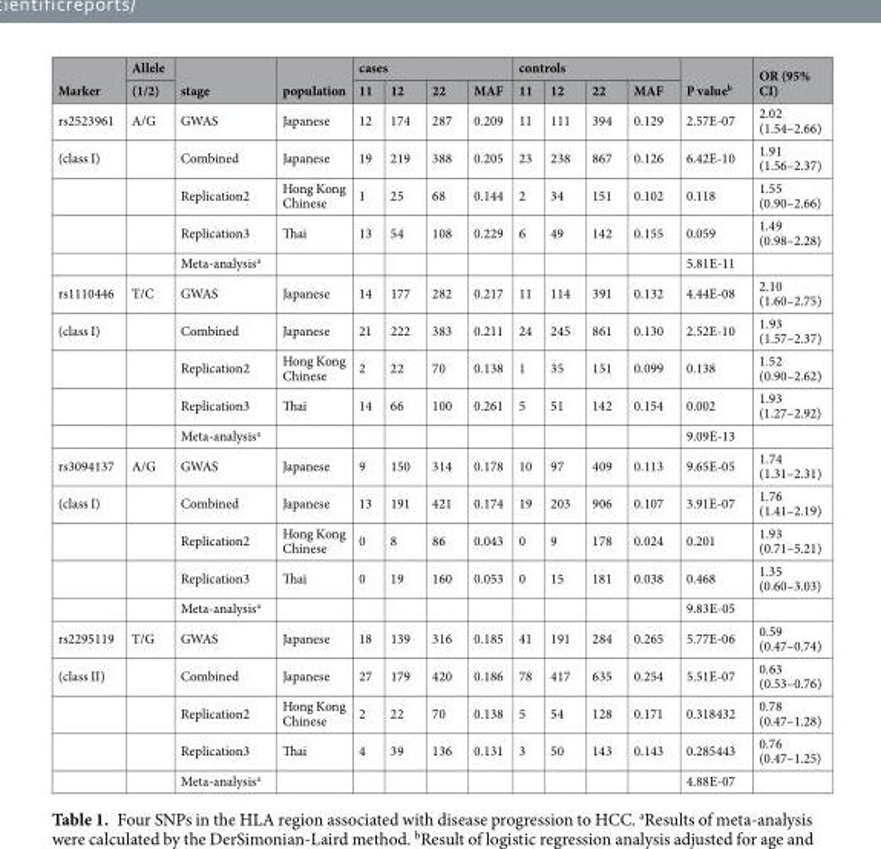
<table><thead><tr><td rowspan="2">Marker</td><td rowspan="2">Allele (1/2)</td><td rowspan="2">stage</td><td rowspan="2">population</td><td colspan="4">cases</td><td colspan="4">controls</td><td rowspan="2">P value<sup>b</sup></td><td rowspan="2">OR (95% CI)</td></tr><tr><td>11</td><td>12</td><td>22</td><td>MAF</td><td>11</td><td>12</td><td>22</td><td>MAF</td></tr></thead><tbody><tr><td>rs2523961</td><td>A/G</td><td>GWAS</td><td>Japanese</td><td>12</td><td>174</td><td>287</td><td>0.209</td><td>11</td><td>111</td><td>394</td><td>0.129</td><td>2.57E-07</td><td>2.02 (1.54–2.66)</td></tr><tr><td rowspan="4">(class I)</td><td></td><td>Combined</td><td>Japanese</td><td>19</td><td>219</td><td>388</td><td>0.205</td><td>23</td><td>238</td><td>867</td><td>0.126</td><td>6.42E-10</td><td>1.91 (1.56–2.37)</td></tr><tr><td></td><td>Replication2</td><td>Hong Kong Chinese</td><td>1</td><td>25</td><td>68</td><td>0.144</td><td>2</td><td>34</td><td>151</td><td>0.102</td><td>0.118</td><td>1.55 (0.90–2.66)</td></tr><tr><td></td><td>Replication3</td><td>Thai</td><td>13</td><td>54</td><td>108</td><td>0.229</td><td>6</td><td>49</td><td>142</td><td>0.155</td><td>0.059</td><td>1.49 (0.98–2.28)</td></tr><tr><td></td><td>Meta-analysis<sup>a</sup></td><td></td><td></td><td></td><td></td><td></td><td></td><td></td><td></td><td></td><td>5.81E-11</td><td></td></tr><tr><td>rs1110446</td><td>T/C</td><td>GWAS</td><td>Japanese</td><td>14</td><td>177</td><td>282</td><td>0.217</td><td>11</td><td>114</td><td>391</td><td>0.132</td><td>4.44E-08</td><td>2.10 (1.60–2.75)</td></tr><tr><td rowspan="4">(class I)</td><td></td><td>Combined</td><td>Japanese</td><td>21</td><td>222</td><td>383</td><td>0.211</td><td>24</td><td>245</td><td>861</td><td>0.130</td><td>2.52E-10</td><td>1.93 (1.57–2.37)</td></tr><tr><td></td><td>Replication2</td><td>Hong Kong Chinese</td><td>2</td><td>22</td><td>70</td><td>0.138</td><td>1</td><td>35</td><td>151</td><td>0.099</td><td>0.138</td><td>1.52 (0.90–2.62)</td></tr><tr><td></td><td>Replication3</td><td>Thai</td><td>14</td><td>66</td><td>100</td><td>0.261</td><td>5</td><td>51</td><td>142</td><td>0.154</td><td>0.002</td><td>1.93 (1.27–2.92)</td></tr><tr><td></td><td>Meta-analysis<sup>a</sup></td><td></td><td></td><td></td><td></td><td></td><td></td><td></td><td></td><td></td><td>9.09E-13</td><td></td></tr><tr><td>rs3094137</td><td>A/G</td><td>GWAS</td><td>Japanese</td><td>9</td><td>150</td><td>314</td><td>0.178</td><td>10</td><td>97</td><td>409</td><td>0.113</td><td>9.65E-05</td><td>1.74 (1.31–2.31)</td></tr><tr><td rowspan="4">(class I)</td><td></td><td>Combined</td><td>Japanese</td><td>13</td><td>191</td><td>421</td><td>0.174</td><td>19</td><td>203</td><td>906</td><td>0.107</td><td>3.91E-07</td><td>1.76 (1.41–2.19)</td></tr><tr><td></td><td>Replication2</td><td>Hong Kong Chinese</td><td>0</td><td>8</td><td>86</td><td>0.043</td><td>0</td><td>9</td><td>178</td><td>0.024</td><td>0.201</td><td>1.93 (0.71–5.21)</td></tr><tr><td></td><td>Replication3</td><td>Thai</td><td>0</td><td>19</td><td>160</td><td>0.053</td><td>0</td><td>15</td><td>181</td><td>0.038</td><td>0.468</td><td>1.35 (0.60–3.03)</td></tr><tr><td></td><td>Meta-analysis<sup>a</sup></td><td></td><td></td><td></td><td></td><td></td><td></td><td></td><td></td><td></td><td>9.83E-05</td><td></td></tr><tr><td>rs2295119</td><td>T/G</td><td>GWAS</td><td>Japanese</td><td>18</td><td>139</td><td>316</td><td>0.185</td><td>41</td><td>191</td><td>284</td><td>0.265</td><td>5.77E-06</td><td>0.59 (0.47–0.74)</td></tr><tr><td rowspan="4">(class II)</td><td></td><td>Combined</td><td>Japanese</td><td>27</td><td>179</td><td>420</td><td>0.186</td><td>78</td><td>417</td><td>635</td><td>0.254</td><td>5.51E-07</td><td>0.63 (0.53–0.76)</td></tr><tr><td></td><td>Replication2</td><td>Hong Kong Chinese</td><td>2</td><td>22</td><td>70</td><td>0.138</td><td>5</td><td>54</td><td>128</td><td>0.171</td><td>0.318432</td><td>0.78 (0.47–1.28)</td></tr><tr><td></td><td>Replication3</td><td>Thai</td><td>4</td><td>39</td><td>136</td><td>0.131</td><td>3</td><td>50</td><td>143</td><td>0.143</td><td>0.285443</td><td>0.76 (0.47–1.25)</td></tr><tr><td></td><td>Meta-analysis<sup>a</sup></td><td></td><td></td><td></td><td></td><td></td><td></td><td></td><td></td><td></td><td>4.88E-07</td><td></td></tr></tbody></table>